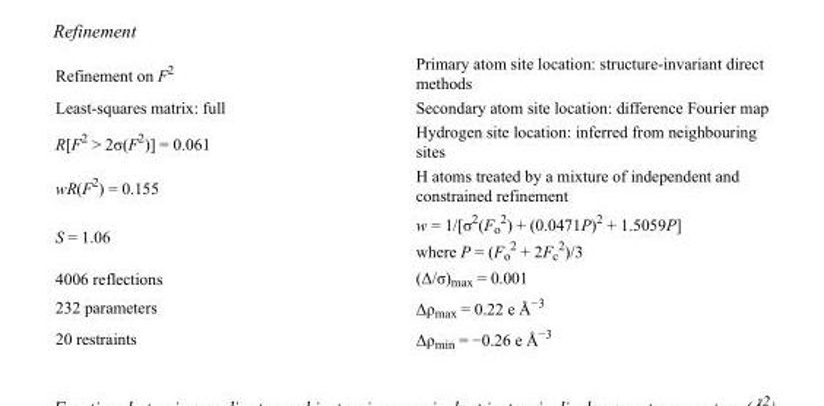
<table><tbody><tr><td>Refinement on F<sup>2</sup></td><td>Primary atom site location: structure-invariant direct methods</td></tr><tr><td>Least-squares matrix: full</td><td>Secondary atom site location: difference Fourier map</td></tr><tr><td>R[F<sup>2</sup> &gt; 2σ(F<sup>2</sup>)] = 0.061</td><td>Hydrogen site location: inferred from neighbouring sites</td></tr><tr><td>wR(F<sup>2</sup>) = 0.155</td><td>H atoms treated by a mixture of independent and constrained refinement</td></tr><tr><td>S = 1.06</td><td>w = 1/[σ<sup>2</sup>(F<sub>o</sub> <sup>2</sup>) + (0.0471P)<sup>2</sup> + 1.5059P] where P = (F<sub>o</sub> <sup>2</sup> + 2F<sub>c</sub> <sup>2</sup>)/3</td></tr><tr><td>4006 reflections</td><td>(Δ/σ)<sub>max</sub> = 0.001</td></tr><tr><td>232 parameters</td><td>Δρ<sub>max</sub> = 0.22 e Å<sup>−3</sup></td></tr><tr><td>20 restraints</td><td>Δρ<sub>min</sub> = −0.26 e Å<sup>−3</sup></td></tr></tbody></table>